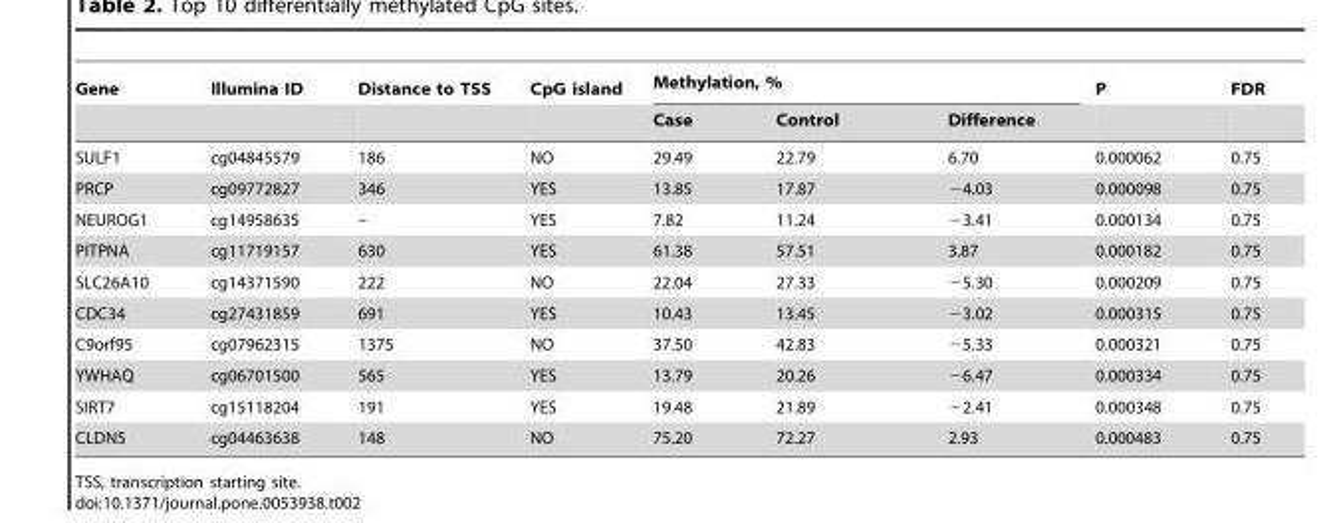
<table><thead><tr><td rowspan="2">Gene</td><td rowspan="2">Illumina ID</td><td rowspan="2">Distance to TSS</td><td rowspan="2">CpG island</td><td colspan="3">Methylation, %</td><td rowspan="2">P</td><td rowspan="2">FDR</td></tr><tr><td>Case</td><td>Control</td><td>Difference</td></tr></thead><tbody><tr><td>SULF1</td><td>cg04845579</td><td>186</td><td>NO</td><td>29.49</td><td>22.79</td><td>6.70</td><td>0.000062</td><td>0.75</td></tr><tr><td>PRCP</td><td>cg09772827</td><td>346</td><td>YES</td><td>13.85</td><td>17.87</td><td>−4.03</td><td>0.000098</td><td>0.75</td></tr><tr><td>NEUROG1</td><td>cg14958635</td><td>–</td><td>YES</td><td>7.82</td><td>11.24</td><td>−3.41</td><td>0.000134</td><td>0.75</td></tr><tr><td>PITPNA</td><td>cg11719157</td><td>630</td><td>YES</td><td>61.38</td><td>57.51</td><td>3.87</td><td>0.000182</td><td>0.75</td></tr><tr><td>SLC26A10</td><td>cg14371590</td><td>222</td><td>NO</td><td>22.04</td><td>27.33</td><td>−5.30</td><td>0.000209</td><td>0.75</td></tr><tr><td>CDC34</td><td>cg27431859</td><td>691</td><td>YES</td><td>10.43</td><td>13.45</td><td>−3.02</td><td>0.000315</td><td>0.75</td></tr><tr><td>C9orf95</td><td>cg07962315</td><td>1375</td><td>NO</td><td>37.50</td><td>42.83</td><td>−5.33</td><td>0.000321</td><td>0.75</td></tr><tr><td>YWHAQ</td><td>cg06701500</td><td>565</td><td>YES</td><td>13.79</td><td>20.26</td><td>−6.47</td><td>0.000334</td><td>0.75</td></tr><tr><td>SIRT7</td><td>cg15118204</td><td>191</td><td>YES</td><td>19.48</td><td>21.89</td><td>−2.41</td><td>0.000348</td><td>0.75</td></tr><tr><td>CLDN5</td><td>cg04463638</td><td>148</td><td>NO</td><td>75.20</td><td>72.27</td><td>2.93</td><td>0.000483</td><td>0.75</td></tr></tbody></table>